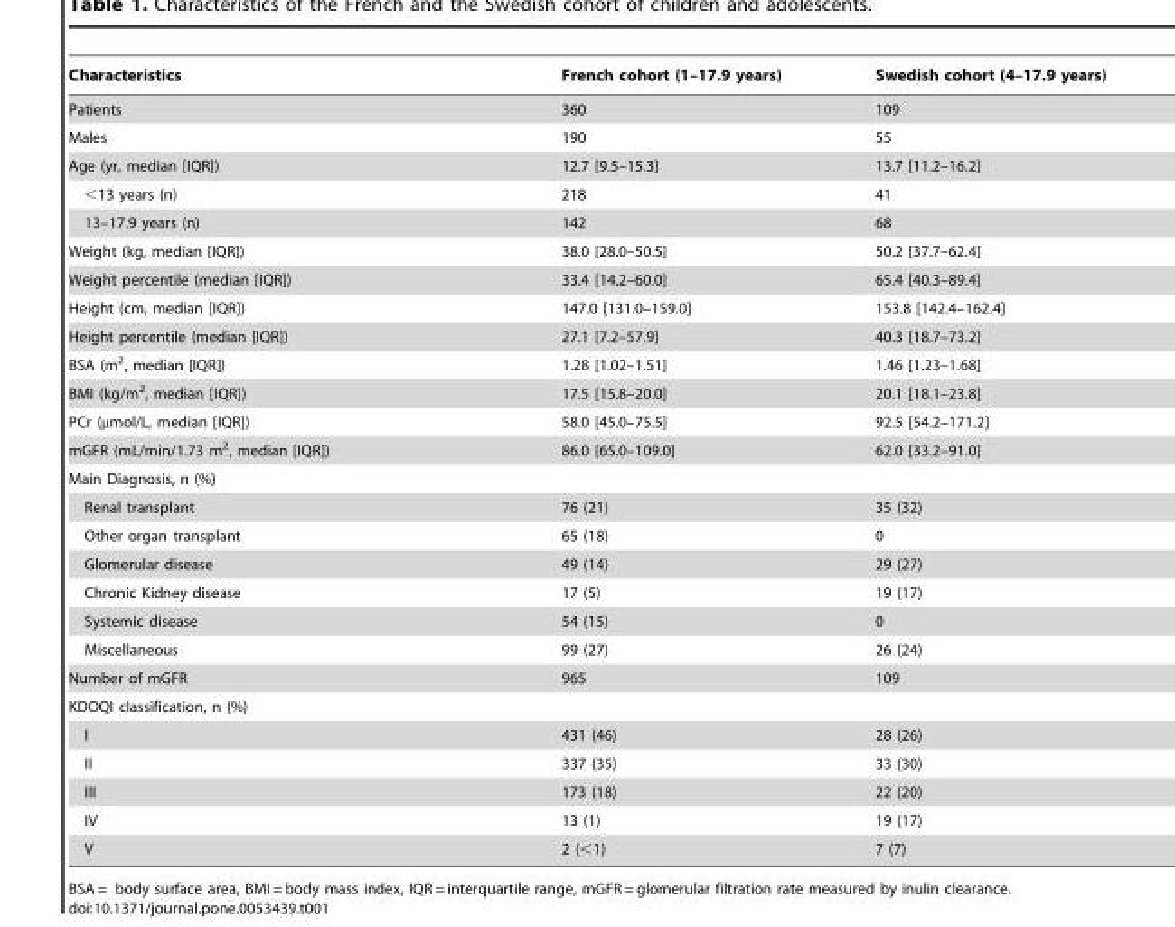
<table><thead><tr><td>Characteristics</td><td>French cohort (1–17.9 years)</td><td>Swedish cohort (4–17.9 years)</td></tr></thead><tbody><tr><td>Patients</td><td>360</td><td>109</td></tr><tr><td>Males</td><td>190</td><td>55</td></tr><tr><td>Age (yr, median [IQR])</td><td>12.7 [9.5–15.3]</td><td>13.7 [11.2–16.2]</td></tr><tr><td>&lt;13 years (n)</td><td>218</td><td>41</td></tr><tr><td>13–17.9 years (n)</td><td>142</td><td>68</td></tr><tr><td>Weight (kg, median [IQR])</td><td>38.0 [28.0–50.5]</td><td>50.2 [37.7–62.4]</td></tr><tr><td>Weight percentile (median [IQR])</td><td>33.4 [14.2–60.0]</td><td>65.4 [40.3–89.4]</td></tr><tr><td>Height (cm, median [IQR])</td><td>147.0 [131.0–159.0]</td><td>153.8 [142.4–162.4]</td></tr><tr><td>Height percentile (median [IQR])</td><td>27.1 [7.2–57.9]</td><td>40.3 [18.7–73.2]</td></tr><tr><td>BSA (m<sup>2</sup>, median [IQR])</td><td>1.28 [1.02–1.51]</td><td>1.46 [1.23–1.68]</td></tr><tr><td>BMI (kg/m<sup>2</sup>, median [IQR])</td><td>17.5 [15.8–20.0]</td><td>20.1 [18.1–23.8]</td></tr><tr><td>PCr (µmol/L, median [IQR])</td><td>58.0 [45.0–75.5]</td><td>92.5 [54.2–171.2]</td></tr><tr><td>mGFR (mL/min/1.73 m<sup>2</sup>, median [IQR])</td><td>86.0 [65.0–109.0]</td><td>62.0 [33.2–91.0]</td></tr><tr><td colspan="3">Main Diagnosis, n (%)</td></tr><tr><td>Renal transplant</td><td>76 (21)</td><td>35 (32)</td></tr><tr><td>Other organ transplant</td><td>65 (18)</td><td>0</td></tr><tr><td>Glomerular disease</td><td>49 (14)</td><td>29 (27)</td></tr><tr><td>Chronic Kidney disease</td><td>17 (5)</td><td>19 (17)</td></tr><tr><td>Systemic disease</td><td>54 (15)</td><td>0</td></tr><tr><td>Miscellaneous</td><td>99 (27)</td><td>26 (24)</td></tr><tr><td>Number of mGFR</td><td>965</td><td>109</td></tr><tr><td colspan="3">KDOQI classification, n (%)</td></tr><tr><td>I</td><td>431 (46)</td><td>28 (26)</td></tr><tr><td>II</td><td>337 (35)</td><td>33 (30)</td></tr><tr><td>III</td><td>173 (18)</td><td>22 (20)</td></tr><tr><td>IV</td><td>13 (1)</td><td>19 (17)</td></tr><tr><td>V</td><td>2 (&lt;1)</td><td>7 (7)</td></tr></tbody></table>